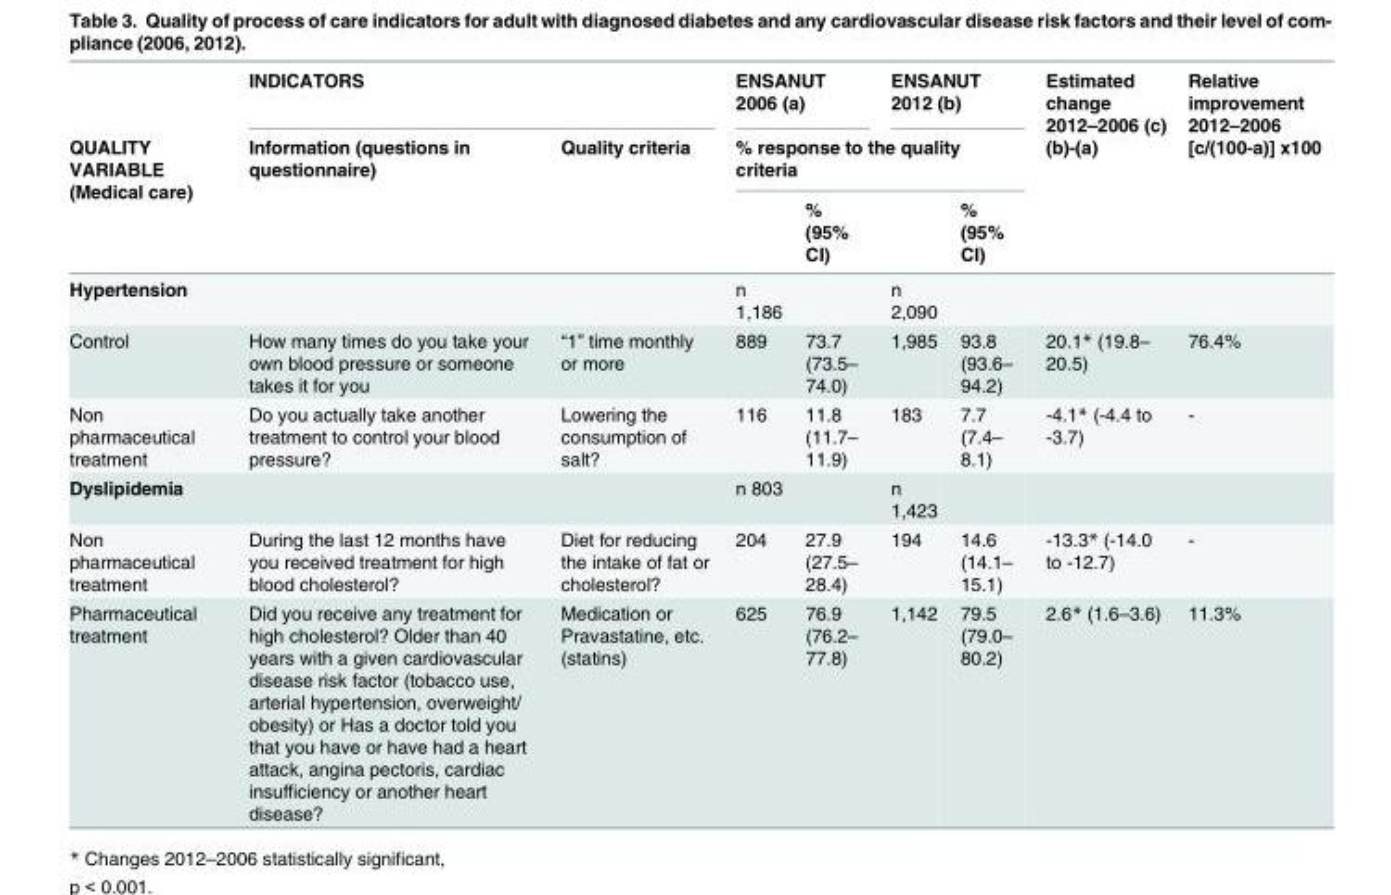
<table><thead><tr><td rowspan="3">QUALITY VARIABLE (Medical care)</td><td colspan="2">INDICATORS</td><td colspan="2">ENSANUT 2006 (a)</td><td colspan="2">ENSANUT 2012 (b)</td><td rowspan="3">Estimated change 2012–2006 (c) (b)-(a)</td><td rowspan="3">Relative improvement 2012–2006 [c/(100-a)] x100</td></tr><tr><td rowspan="2">Information (questions in questionnaire)</td><td rowspan="2">Quality criteria</td><td colspan="4">% response to the quality criteria</td></tr><tr><td></td><td>% (95% CI)</td><td></td><td>% (95% CI)</td></tr></thead><tbody><tr><td colspan="3">Hypertension</td><td>n 1,186</td><td></td><td>n 2,090</td><td></td><td></td><td></td></tr><tr><td>Control</td><td>How many times do you take your own blood pressure or someone takes it for you</td><td>“1” time monthly or more</td><td>889</td><td>73.7 (73.5– 74.0)</td><td>1,985</td><td>93.8 (93.6– 94.2)</td><td>20.1* (19.8– 20.5)</td><td>76.4%</td></tr><tr><td>Non pharmaceutical treatment</td><td>Do you actually take another treatment to control your blood pressure?</td><td>Lowering the consumption of salt?</td><td>116</td><td>11.8 (11.7– 11.9)</td><td>183</td><td>7.7 (7.4– 8.1)</td><td>-4.1* (-4.4 to -3.7)</td><td>-</td></tr><tr><td colspan="3">Dyslipidemia</td><td>n 803</td><td></td><td>n 1,423</td><td></td><td></td><td></td></tr><tr><td>Non pharmaceutical treatment</td><td>During the last 12 months have you received treatment for high blood cholesterol?</td><td>Diet for reducing the intake of fat or cholesterol?</td><td>204</td><td>27.9 (27.5– 28.4)</td><td>194</td><td>14.6 (14.1– 15.1)</td><td>-13.3* (-14.0 to -12.7)</td><td>-</td></tr><tr><td>Pharmaceutical treatment</td><td>Did you receive any treatment for high cholesterol? Older than 40 years with a given cardiovascular disease risk factor (tobacco use, arterial hypertension, overweight/ obesity) or Has a doctor told you that you have or have had a heart attack, angina pectoris, cardiac insufficiency or another heart disease?</td><td>Medication or Pravastatine, etc. (statins)</td><td>625</td><td>76.9 (76.2– 77.8)</td><td>1,142</td><td>79.5 (79.0– 80.2)</td><td>2.6* (1.6–3.6)</td><td>11.3%</td></tr></tbody></table>